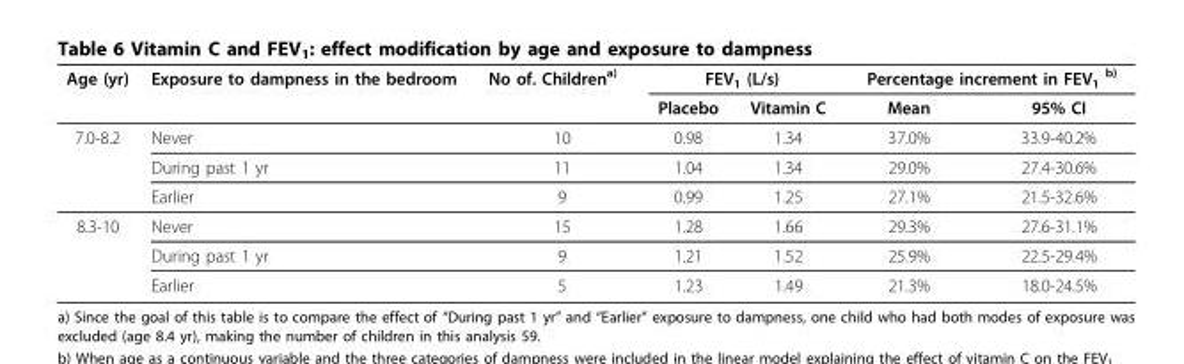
<table><thead><tr><td rowspan="2">Age (yr)</td><td rowspan="2">Exposure to dampness in the bedroom</td><td rowspan="2">No of. Childrena)</td><td colspan="2">FEV1 (L/s)</td><td colspan="2">Percentage increment in FEV1 b)</td></tr><tr><td>Placebo</td><td>Vitamin C</td><td>Mean</td><td>95% CI</td></tr></thead><tbody><tr><td rowspan="3">7.0-8.2</td><td>Never</td><td>10</td><td>0.98</td><td>1.34</td><td>37.0%</td><td>33.9-40.2%</td></tr><tr><td>During past 1 yr</td><td>11</td><td>1.04</td><td>1.34</td><td>29.0%</td><td>27.4-30.6%</td></tr><tr><td>Earlier</td><td>9</td><td>0.99</td><td>1.25</td><td>27.1%</td><td>21.5-32.6%</td></tr><tr><td rowspan="3">8.3-10</td><td>Never</td><td>15</td><td>1.28</td><td>1.66</td><td>29.3%</td><td>27.6-31.1%</td></tr><tr><td>During past 1 yr</td><td>9</td><td>1.21</td><td>1.52</td><td>25.9%</td><td>22.5-29.4%</td></tr><tr><td>Earlier</td><td>5</td><td>1.23</td><td>1.49</td><td>21.3%</td><td>18.0-24.5%</td></tr></tbody></table>